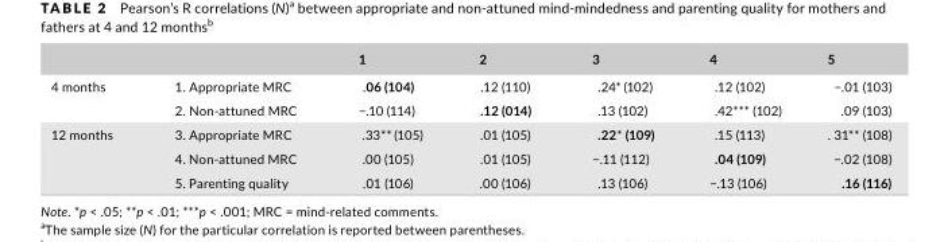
<table><thead><tr><td></td><td></td><td>1</td><td>2</td><td>3</td><td>4</td><td>5</td></tr></thead><tbody><tr><td rowspan="2">4 months</td><td>1. Appropriate MRC</td><td>.06 (104)</td><td>.12 (110)</td><td>.24* (102)</td><td>.12 (102)</td><td>−.01 (103)</td></tr><tr><td>2. Non- attuned MRC</td><td>−.10 (114)</td><td>.12 (014)</td><td>.13 (102)</td><td>.42*** (102)</td><td>.09 (103)</td></tr><tr><td rowspan="3">12 months</td><td>3. Appropriate MRC</td><td>.33** (105)</td><td>.01 (105)</td><td>.22* (109)</td><td>.15 (113)</td><td>. 31** (108)</td></tr><tr><td>4. Non- attuned MRC</td><td>.00 (105)</td><td>.01 (105)</td><td>−.11 (112)</td><td>.04 (109)</td><td>−.02 (108)</td></tr><tr><td>5. Parenting quality</td><td>.01 (106)</td><td>.00 (106)</td><td>.13 (106)</td><td>−.13 (106)</td><td>.16 (116)</td></tr></tbody></table>